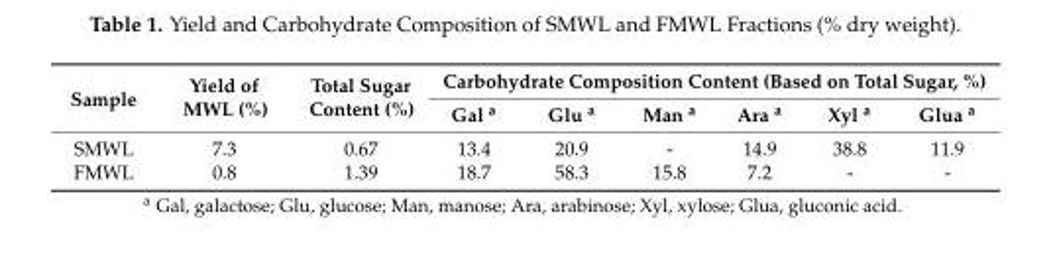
<table><thead><tr><td rowspan="2">Sample</td><td rowspan="2">Yield of MWL (%)</td><td rowspan="2">Total Sugar Content (%)</td><td colspan="6">Carbohydrate Composition Content (Based on Total Sugar, %)</td></tr><tr><td>Gal <sup>a</sup></td><td>Glu <sup>a</sup></td><td>Man <sup>a</sup></td><td>Ara <sup>a</sup></td><td>Xyl <sup>a</sup></td><td>Glua <sup>a</sup></td></tr></thead><tbody><tr><td>SMWL</td><td>7.3</td><td>0.67</td><td>13.4</td><td>20.9</td><td>-</td><td>14.9</td><td>38.8</td><td>11.9</td></tr><tr><td>FMWL</td><td>0.8</td><td>1.39</td><td>18.7</td><td>58.3</td><td>15.8</td><td>7.2</td><td>-</td><td>-</td></tr></tbody></table>